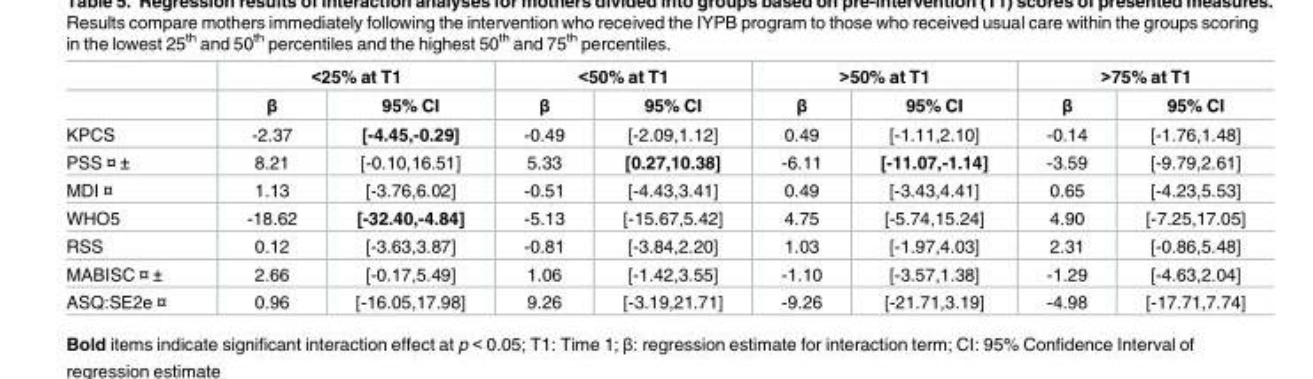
<table><thead><tr><td rowspan="2"></td><td colspan="2">&lt;25% at T1</td><td colspan="2">&lt;50% at T1</td><td colspan="2">&gt;50% at T1</td><td colspan="2">&gt;75% at T1</td></tr><tr><td>β</td><td>95% CI</td><td>β</td><td>95% CI</td><td>β</td><td>95% CI</td><td>β</td><td>95% CI</td></tr></thead><tbody><tr><td>KPCS</td><td>-2.37</td><td>[-4.45,-0.29]</td><td>-0.49</td><td>[-2.09,1.12]</td><td>0.49</td><td>[-1.11,2.10]</td><td>-0.14</td><td>[-1.76,1.48]</td></tr><tr><td>PSS ¤ ±</td><td>8.21</td><td>[-0.10,16.51]</td><td>5.33</td><td>[0.27,10.38]</td><td>-6.11</td><td>[-11.07,-1.14]</td><td>-3.59</td><td>[-9.79,2.61]</td></tr><tr><td>MDI ¤</td><td>1.13</td><td>[-3.76,6.02]</td><td>-0.51</td><td>[-4.43,3.41]</td><td>0.49</td><td>[-3.43,4.41]</td><td>0.65</td><td>[-4.23,5.53]</td></tr><tr><td>WHO5</td><td>-18.62</td><td>[-32.40,-4.84]</td><td>-5.13</td><td>[-15.67,5.42]</td><td>4.75</td><td>[-5.74,15.24]</td><td>4.90</td><td>[-7.25,17.05]</td></tr><tr><td>RSS</td><td>0.12</td><td>[-3.63,3.87]</td><td>-0.81</td><td>[-3.84,2.20]</td><td>1.03</td><td>[-1.97,4.03]</td><td>2.31</td><td>[-0.86,5.48]</td></tr><tr><td>MABISC ¤ ±</td><td>2.66</td><td>[-0.17,5.49]</td><td>1.06</td><td>[-1.42,3.55]</td><td>-1.10</td><td>[-3.57,1.38]</td><td>-1.29</td><td>[-4.63,2.04]</td></tr><tr><td>ASQ:SE2e ¤</td><td>0.96</td><td>[-16.05,17.98]</td><td>9.26</td><td>[-3.19,21.71]</td><td>-9.26</td><td>[-21.71,3.19]</td><td>-4.98</td><td>[-17.71,7.74]</td></tr></tbody></table>